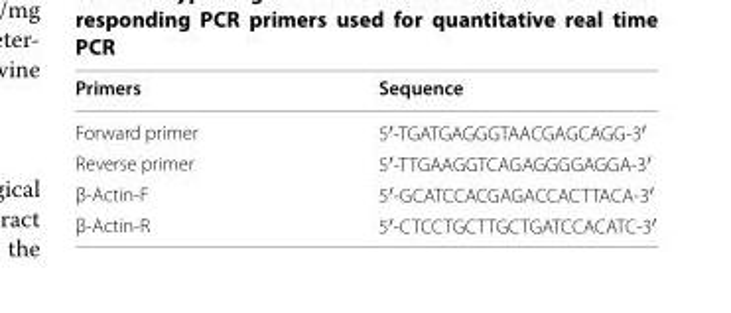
<table><thead><tr><td>Primers</td><td>Sequence</td></tr></thead><tbody><tr><td>Forward primer</td><td>5′-TGATGAGGGTAACGAGCAGG-3′</td></tr><tr><td>Reverse primer</td><td>5′-TTGAAGGTCAGAGGGGAGGA-3′</td></tr><tr><td>β-Actin-F</td><td>5′-GCATCCACGAGACCACTTACA-3′</td></tr><tr><td>β-Actin-R</td><td>5′-CTCCTGCTTGCTGATCCACATC-3′</td></tr></tbody></table>